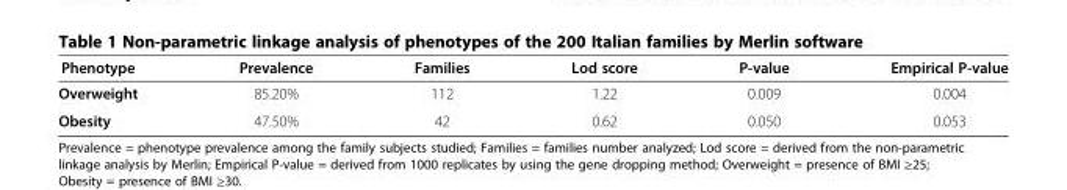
<table><thead><tr><td>Phenotype</td><td>Prevalence</td><td>Families</td><td>Lod score</td><td>P-value</td><td>Empirical P-value</td></tr></thead><tbody><tr><td>Overweight</td><td>85.20%</td><td>112</td><td>1.22</td><td>0.009</td><td>0.004</td></tr><tr><td>Obesity</td><td>47.50%</td><td>42</td><td>0.62</td><td>0.050</td><td>0.053</td></tr></tbody></table>